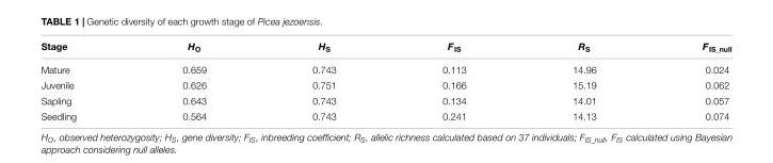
<table><thead><tr><td>Stage</td><td>H<sub>O</sub></td><td>H<sub>S</sub></td><td>F<sub>IS</sub></td><td>R<sub>S</sub></td><td>F<sub>IS_null</sub></td></tr></thead><tbody><tr><td>Mature</td><td>0.659</td><td>0.743</td><td>0.113</td><td>14.96</td><td>0.024</td></tr><tr><td>Juvenile</td><td>0.626</td><td>0.751</td><td>0.166</td><td>15.19</td><td>0.062</td></tr><tr><td>Sapling</td><td>0.643</td><td>0.743</td><td>0.134</td><td>14.01</td><td>0.057</td></tr><tr><td>Seedling</td><td>0.564</td><td>0.743</td><td>0.241</td><td>14.13</td><td>0.074</td></tr></tbody></table>